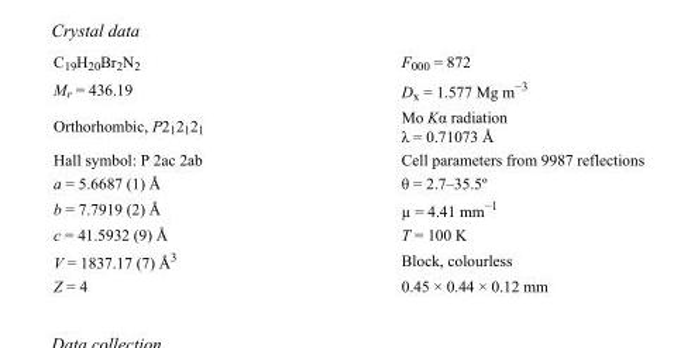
<table><tbody><tr><td>C<sub>19</sub>H<sub>20</sub>Br<sub>2</sub>N<sub>2</sub></td><td>F000 = 872</td></tr><tr><td>M<sub>r</sub> = 436.19</td><td>D<sub>x</sub> = 1.577 Mg m<sup>−3</sup></td></tr><tr><td>Orthorhombic, P2<sub>1</sub>2<sub>1</sub>2<sub>1</sub></td><td>Mo Kα radiation λ = 0.71073 Å</td></tr><tr><td>Hall symbol: P 2ac 2ab</td><td>Cell parameters from 9987 reflections</td></tr><tr><td>a = 5.6687 (1) Å</td><td>θ = 2.7–35.5º</td></tr><tr><td>b = 7.7919 (2) Å</td><td>µ = 4.41 mm<sup>−1</sup></td></tr><tr><td>c = 41.5932 (9) Å</td><td>T = 100 K</td></tr><tr><td>V = 1837.17 (7) Å<sup>3</sup></td><td>Block, colourless</td></tr><tr><td>Z = 4</td><td>0.45 × 0.44 × 0.12 mm</td></tr></tbody></table>